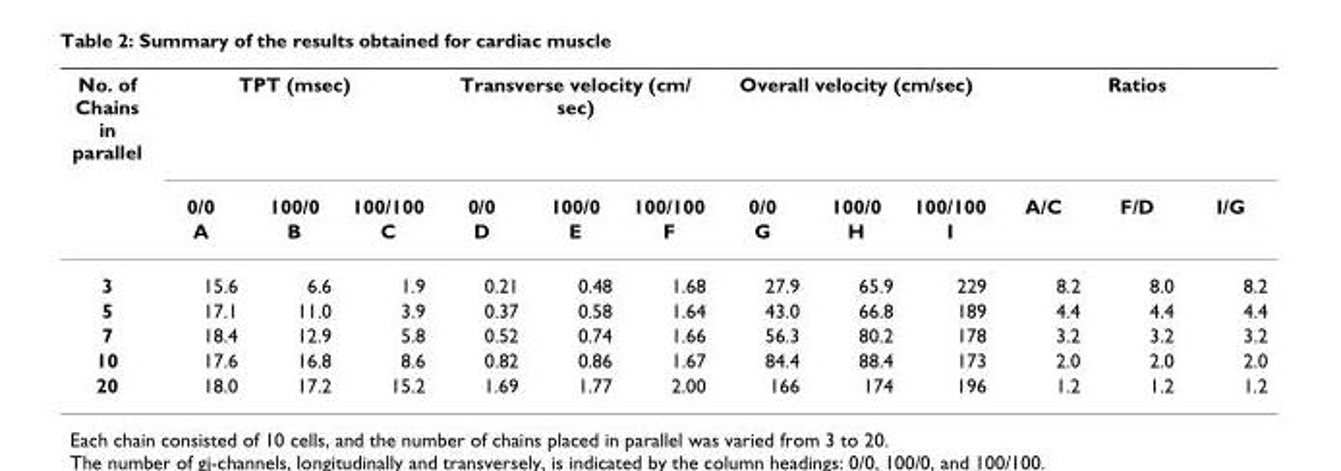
<table><thead><tr><td rowspan="3">No. of Chains in parallel</td><td colspan="3">TPT (msec)</td><td colspan="3">Transverse velocity (cm/ sec)</td><td colspan="3">Overall velocity (cm/sec)</td><td colspan="3">Ratios</td></tr><tr><td rowspan="2">0/0 A</td><td rowspan="2">100/0 B</td><td rowspan="2">100/100 C</td><td rowspan="2">0/0 D</td><td rowspan="2">100/0 E</td><td rowspan="2">100/100 F</td><td rowspan="2">0/0 G</td><td rowspan="2">100/0 H</td><td rowspan="2">100/100 I</td><td rowspan="2">A/C</td><td rowspan="2">F/D</td><td rowspan="2">I/G</td></tr><tr></tr></thead><tbody><tr><td>3</td><td>15.6</td><td>6.6</td><td>1.9</td><td>0.21</td><td>0.48</td><td>1.68</td><td>27.9</td><td>65.9</td><td>229</td><td>8.2</td><td>8.0</td><td>8.2</td></tr><tr><td>5</td><td>17.1</td><td>11.0</td><td>3.9</td><td>0.37</td><td>0.58</td><td>1.64</td><td>43.0</td><td>66.8</td><td>189</td><td>4.4</td><td>4.4</td><td>4.4</td></tr><tr><td>7</td><td>18.4</td><td>12.9</td><td>5.8</td><td>0.52</td><td>0.74</td><td>1.66</td><td>56.3</td><td>80.2</td><td>178</td><td>3.2</td><td>3.2</td><td>3.2</td></tr><tr><td>10</td><td>17.6</td><td>16.8</td><td>8.6</td><td>0.82</td><td>0.86</td><td>1.67</td><td>84.4</td><td>88.4</td><td>173</td><td>2.0</td><td>2.0</td><td>2.0</td></tr><tr><td>20</td><td>18.0</td><td>17.2</td><td>15.2</td><td>1.69</td><td>1.77</td><td>2.00</td><td>166</td><td>174</td><td>196</td><td>1.2</td><td>1.2</td><td>1.2</td></tr></tbody></table>